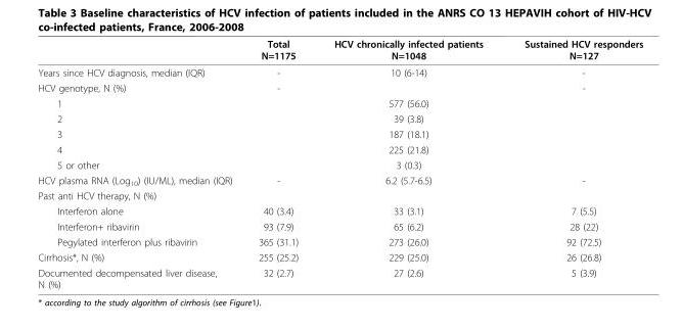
<table><thead><tr><td></td><td>Total N=1175</td><td>HCV chronically infected patients N=1048</td><td>Sustained HCV responders N=127</td></tr></thead><tbody><tr><td>Years since HCV diagnosis, median (IQR)</td><td>-</td><td>10 (6-14)</td><td>-</td></tr><tr><td>HCV genotype, N (%)</td><td>-</td><td></td><td>-</td></tr><tr><td>1</td><td></td><td>577 (56.0)</td><td></td></tr><tr><td>2</td><td></td><td>39 (3.8)</td><td></td></tr><tr><td>3</td><td></td><td>187 (18.1)</td><td></td></tr><tr><td>4</td><td></td><td>225 (21.8)</td><td></td></tr><tr><td>5 or other</td><td></td><td>3 (0.3)</td><td></td></tr><tr><td>HCV plasma RNA (Log<sub>10</sub>) (IU/ML), median (IQR)</td><td>-</td><td>6.2 (5.7-6.5)</td><td>-</td></tr><tr><td colspan="4">Past anti HCV therapy, N (%)</td></tr><tr><td>Interferon alone</td><td>40 (3.4)</td><td>33 (3.1)</td><td>7 (5.5)</td></tr><tr><td>Interferon+ ribavirin</td><td>93 (7.9)</td><td>65 (6.2)</td><td>28 (22)</td></tr><tr><td>Pegylated interferon plus ribavirin</td><td>365 (31.1)</td><td>273 (26.0)</td><td>92 (72.5)</td></tr><tr><td>Cirrhosis*, N (%)</td><td>255 (25.2)</td><td>229 (25.0)</td><td>26 (26.8)</td></tr><tr><td>Documented decompensated liver disease, N (%)</td><td>32 (2.7)</td><td>27 (2.6)</td><td>5 (3.9)</td></tr></tbody></table>